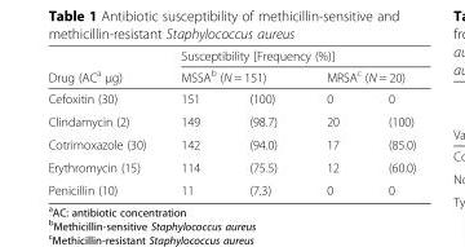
<table><thead><tr><td rowspan="3">Drug (AC<sup>a</sup> μg) Cefoxitin (30)</td><td colspan="4">Susceptibility [Frequency (%)]</td></tr><tr><td colspan="2">MSSA<sup>b</sup> (N = 151)</td><td colspan="2">MRSA<sup>c</sup> (N = 20)</td></tr><tr><td>151</td><td>(100)</td><td>0</td><td>0</td></tr></thead><tbody><tr><td>Clindamycin (2)</td><td>149</td><td>(98.7)</td><td>20</td><td>(100)</td></tr><tr><td>Cotrimoxazole (30)</td><td>142</td><td>(94.0)</td><td>17</td><td>(85.0)</td></tr><tr><td>Erythromycin (15)</td><td>114</td><td>(75.5)</td><td>12</td><td>(60.0)</td></tr><tr><td>Penicillin (10)</td><td>11</td><td>(7.3)</td><td>0</td><td>0</td></tr></tbody></table>